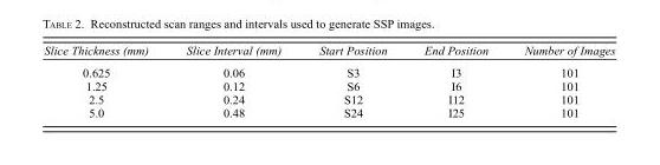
<table><thead><tr><td>Slice Thickness (mm)</td><td>Slice Interval (mm)</td><td>Start Position</td><td>End Position</td><td>Number of Images</td></tr></thead><tbody><tr><td>0.625</td><td>0.06</td><td>S3</td><td>I3</td><td>101</td></tr><tr><td>1.25</td><td>0.12</td><td>S6</td><td>I6</td><td>101</td></tr><tr><td>2.5</td><td>0.24</td><td>S12</td><td>I12</td><td>101</td></tr><tr><td>5.0</td><td>0.48</td><td>S24</td><td>I25</td><td>101</td></tr></tbody></table>